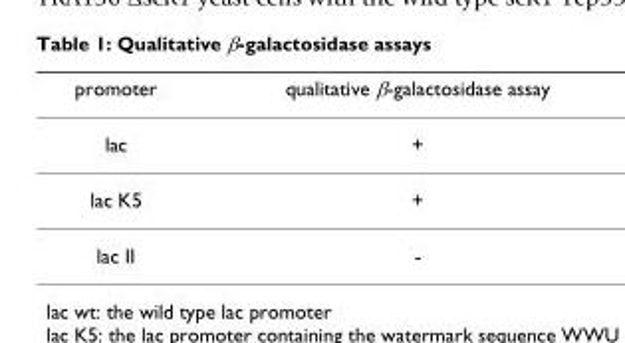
<table><thead><tr><td>promoter</td><td>qualitative β-galactosidase assay</td></tr></thead><tbody><tr><td>lac</td><td>+</td></tr><tr><td>lac K5</td><td>+</td></tr><tr><td>lac II</td><td>-</td></tr></tbody></table>